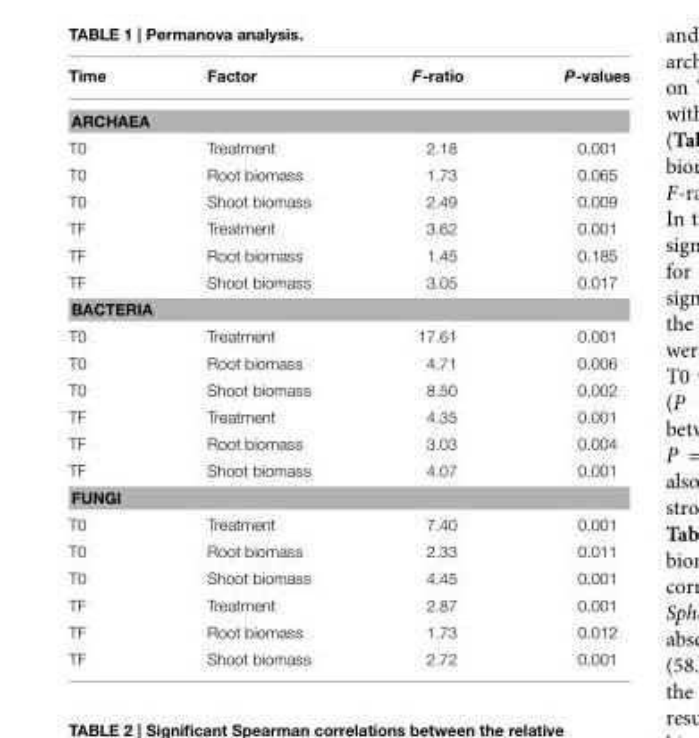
<table><thead><tr><td>Time</td><td>Factor</td><td>F-ratio</td><td>P-values</td></tr></thead><tbody><tr><td colspan="4">ARCHAEA</td></tr><tr><td>T0</td><td>Treatment</td><td>2.18</td><td>0.001</td></tr><tr><td>T0</td><td>Root biomass</td><td>1.73</td><td>0.065</td></tr><tr><td>T0</td><td>Shoot biomass</td><td>2.49</td><td>0.009</td></tr><tr><td>TF</td><td>Treatment</td><td>3.62</td><td>0.001</td></tr><tr><td>TF</td><td>Root biomass</td><td>1.45</td><td>0.185</td></tr><tr><td>TF</td><td>Shoot biomass</td><td>3.05</td><td>0.017</td></tr><tr><td colspan="4">BACTERIA</td></tr><tr><td>T0</td><td>Treatment</td><td>17.61</td><td>0.001</td></tr><tr><td>T0</td><td>Root biomass</td><td>4.71</td><td>0.006</td></tr><tr><td>T0</td><td>Shoot biomass</td><td>8.50</td><td>0.002</td></tr><tr><td>TF</td><td>Treatment</td><td>4.35</td><td>0.001</td></tr><tr><td>TF</td><td>Root biomass</td><td>3.03</td><td>0.004</td></tr><tr><td>TF</td><td>Shoot biomass</td><td>4.07</td><td>0.001</td></tr><tr><td colspan="4">FUNGI</td></tr><tr><td>T0</td><td>Treatment</td><td>7.40</td><td>0.001</td></tr><tr><td>T0</td><td>Root biomass</td><td>2.33</td><td>0.011</td></tr><tr><td>T0</td><td>Shoot biomass</td><td>4.45</td><td>0.001</td></tr><tr><td>TF</td><td>Treatment</td><td>2.87</td><td>0.001</td></tr><tr><td>TF</td><td>Root biomass</td><td>1.73</td><td>0.012</td></tr><tr><td>TF</td><td>Shoot biomass</td><td>2.72</td><td>0.001</td></tr></tbody></table>